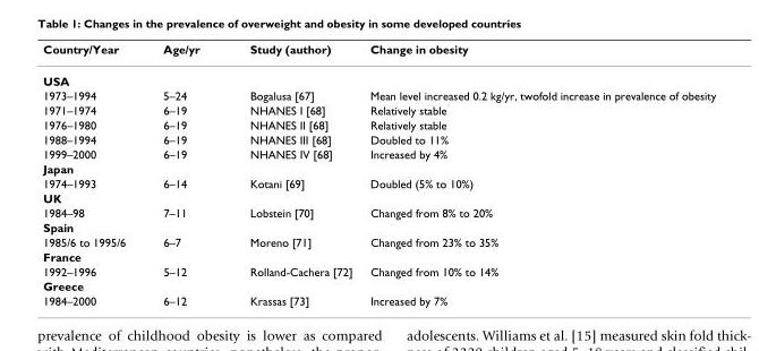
<table><thead><tr><td>Country/Year</td><td>Age/yr</td><td>Study (author)</td><td>Change in obesity</td></tr></thead><tbody><tr><td colspan="4">USA</td></tr><tr><td>1973–1994</td><td>5–24</td><td>Bogalusa [67]</td><td>Mean level increased 0.2 kg/yr, twofold increase in prevalence of obesity</td></tr><tr><td>1971–1974</td><td>6–19</td><td>NHANES I [68]</td><td>Relatively stable</td></tr><tr><td>1976–1980</td><td>6–19</td><td>NHANES II [68]</td><td>Relatively stable</td></tr><tr><td>1988–1994</td><td>6–19</td><td>NHANES III [68]</td><td>Doubled to 11%</td></tr><tr><td>1999–2000</td><td>6–19</td><td>NHANES IV [68]</td><td>Increased by 4%</td></tr><tr><td colspan="4">Japan</td></tr><tr><td>1974–1993</td><td>6–14</td><td>Kotani [69]</td><td>Doubled (5% to 10%)</td></tr><tr><td colspan="4">UK</td></tr><tr><td>1984–98</td><td>7–11</td><td>Lobstein [70]</td><td>Changed from 8% to 20%</td></tr><tr><td colspan="4">Spain</td></tr><tr><td>1985/6 to 1995/6</td><td>6–7</td><td>Moreno [71]</td><td>Changed from 23% to 35%</td></tr><tr><td colspan="4">France</td></tr><tr><td>1992–1996</td><td>5–12</td><td>Rolland-Cachera [72]</td><td>Changed from 10% to 14%</td></tr><tr><td colspan="4">Greece</td></tr><tr><td>1984–2000</td><td>6–12</td><td>Krassas [73]</td><td>Increased by 7%</td></tr></tbody></table>